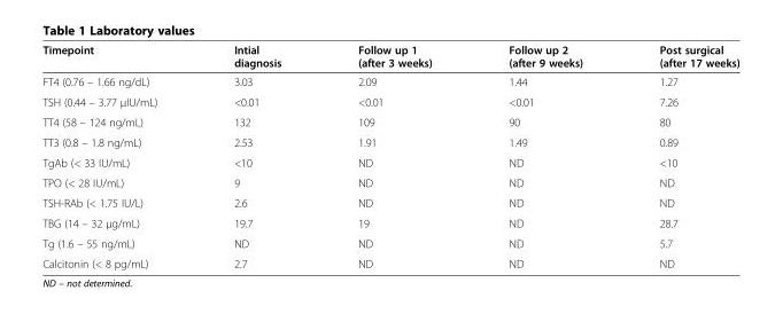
<table><thead><tr><td>Timepoint</td><td>Intial diagnosis</td><td>Follow up 1 (after 3 weeks)</td><td>Follow up 2 (after 9 weeks)</td><td>Post surgical (after 17 weeks)</td></tr></thead><tbody><tr><td>FT4 (0.76 – 1.66 ng/dL)</td><td>3.03</td><td>2.09</td><td>1.44</td><td>1.27</td></tr><tr><td>TSH (0.44 – 3.77 μIU/mL)</td><td>&lt;0.01</td><td>&lt;0.01</td><td>&lt;0.01</td><td>7.26</td></tr><tr><td>TT4 (58 – 124 ng/mL)</td><td>132</td><td>109</td><td>90</td><td>80</td></tr><tr><td>TT3 (0.8 – 1.8 ng/mL)</td><td>2.53</td><td>1.91</td><td>1.49</td><td>0.89</td></tr><tr><td>TgAb (&lt; 33 IU/mL)</td><td>&lt;10</td><td>ND</td><td>ND</td><td>&lt;10</td></tr><tr><td>TPO (&lt; 28 IU/mL)</td><td>9</td><td>ND</td><td>ND</td><td>ND</td></tr><tr><td>TSH-RAb (&lt; 1.75 IU/L)</td><td>2.6</td><td>ND</td><td>ND</td><td>ND</td></tr><tr><td>TBG (14 – 32 μg/mL)</td><td>19.7</td><td>19</td><td>ND</td><td>28.7</td></tr><tr><td>Tg (1.6 – 55 ng/mL)</td><td>ND</td><td>ND</td><td>ND</td><td>5.7</td></tr><tr><td>Calcitonin (&lt; 8 pg/mL)</td><td>2.7</td><td>ND</td><td>ND</td><td>ND</td></tr></tbody></table>